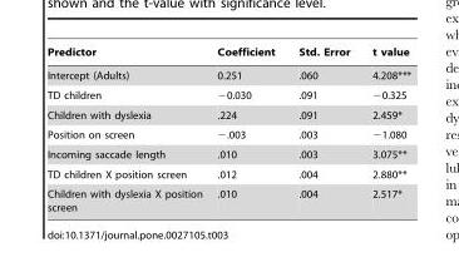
<table><thead><tr><td>Predictor</td><td>Coefficient</td><td>Std. Error</td><td>t value</td></tr></thead><tbody><tr><td>Intercept (Adults)</td><td>0.251</td><td>.060</td><td>4.208***</td></tr><tr><td>TD children</td><td>−0.030</td><td>.091</td><td>−0.325</td></tr><tr><td>Children with dyslexia</td><td>.224</td><td>.091</td><td>2.459*</td></tr><tr><td>Position on screen</td><td>−.003</td><td>.003</td><td>−1.080</td></tr><tr><td>Incoming saccade length</td><td>.010</td><td>.003</td><td>3.075**</td></tr><tr><td>TD children X position screen</td><td>.012</td><td>.004</td><td>2.880**</td></tr><tr><td>Children with dyslexia X position screen</td><td>.010</td><td>.004</td><td>2.517*</td></tr></tbody></table>